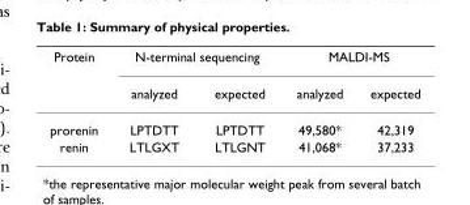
<table><thead><tr><td rowspan="2">Protein</td><td colspan="2">N-terminal sequencing</td><td colspan="2">MALDI-MS</td></tr><tr><td>analyzed</td><td>expected</td><td>analyzed</td><td>expected</td></tr></thead><tbody><tr><td>prorenin</td><td>LPTDTT</td><td>LPTDTT</td><td>49,580*</td><td>42,319</td></tr><tr><td>renin</td><td>LTLGXT</td><td>LTLGNT</td><td>41,068*</td><td>37,233</td></tr></tbody></table>